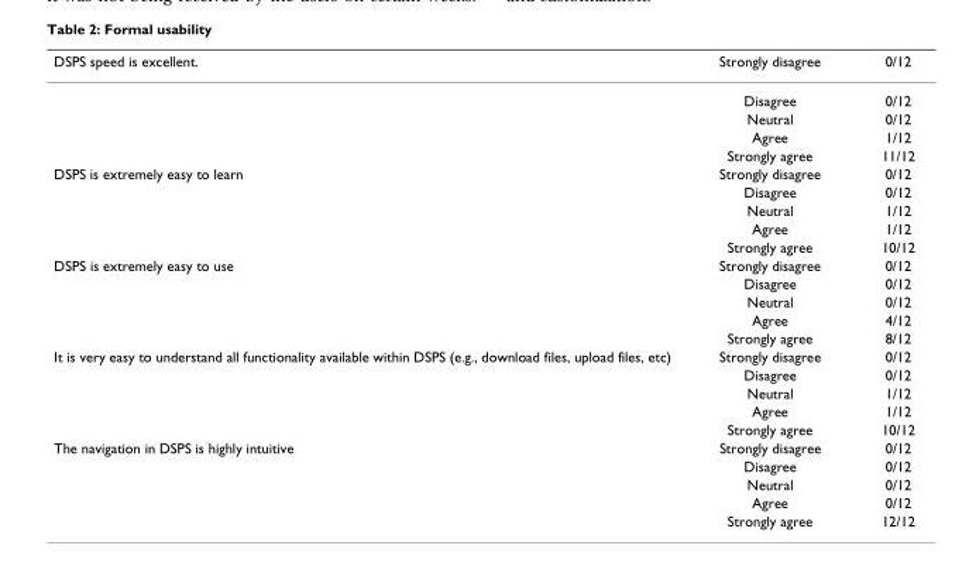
<table><thead><tr><td>DSPS speed is excellent.</td><td>Strongly disagree</td><td>0/12</td></tr></thead><tbody><tr><td></td><td>Disagree</td><td>0/12</td></tr><tr><td></td><td>Neutral</td><td>0/12</td></tr><tr><td></td><td>Agree</td><td>1/12</td></tr><tr><td></td><td>Strongly agree</td><td>11/12</td></tr><tr><td rowspan="5">DSPS is extremely easy to learn</td><td>Strongly disagree</td><td>0/12</td></tr><tr><td>Disagree</td><td>0/12</td></tr><tr><td>Neutral</td><td>1/12</td></tr><tr><td>Agree</td><td>1/12</td></tr><tr><td>Strongly agree</td><td>10/12</td></tr><tr><td rowspan="5">DSPS is extremely easy to use</td><td>Strongly disagree</td><td>0/12</td></tr><tr><td>Disagree</td><td>0/12</td></tr><tr><td>Neutral</td><td>0/12</td></tr><tr><td>Agree</td><td>4/12</td></tr><tr><td>Strongly agree</td><td>8/12</td></tr><tr><td rowspan="5">It is very easy to understand all functionality available within DSPS (e.g., download files, upload files, etc)</td><td>Strongly disagree</td><td>0/12</td></tr><tr><td>Disagree</td><td>0/12</td></tr><tr><td>Neutral</td><td>1/12</td></tr><tr><td>Agree</td><td>1/12</td></tr><tr><td>Strongly agree</td><td>10/12</td></tr><tr><td rowspan="5">The navigation in DSPS is highly intuitive</td><td>Strongly disagree</td><td>0/12</td></tr><tr><td>Disagree</td><td>0/12</td></tr><tr><td>Neutral</td><td>0/12</td></tr><tr><td>Agree</td><td>0/12</td></tr><tr><td>Strongly agree</td><td>12/12</td></tr></tbody></table>